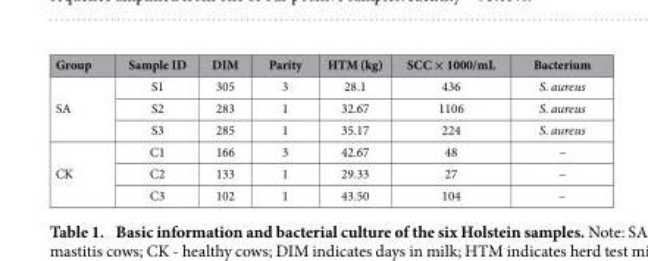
<table><thead><tr><td>Group</td><td>Sample ID</td><td>DIM</td><td>Parity</td><td>HTM (kg)</td><td>SCC × 1000/mL</td><td>Bacterium</td></tr></thead><tbody><tr><td rowspan="3">SA</td><td>S1</td><td>305</td><td>3</td><td>28.1</td><td>436</td><td>S. aureus</td></tr><tr><td>S2</td><td>283</td><td>1</td><td>32.67</td><td>1106</td><td>S. aureus</td></tr><tr><td>S3</td><td>285</td><td>1</td><td>35.17</td><td>224</td><td>S. aureus</td></tr><tr><td rowspan="3">CK</td><td>C1</td><td>166</td><td>3</td><td>42.67</td><td>48</td><td>–</td></tr><tr><td>C2</td><td>133</td><td>1</td><td>29.33</td><td>27</td><td>–</td></tr><tr><td>C3</td><td>102</td><td>1</td><td>43.50</td><td>104</td><td>–</td></tr></tbody></table>